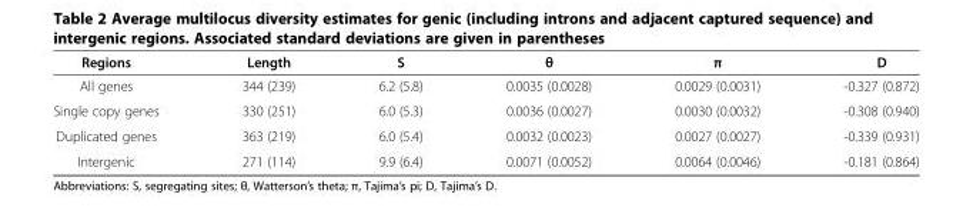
<table><thead><tr><td>Regions</td><td>Length</td><td>S</td><td>θ</td><td>π</td><td>D</td></tr></thead><tbody><tr><td>All genes</td><td>344 (239)</td><td>6.2 (5.8)</td><td>0.0035 (0.0028)</td><td>0.0029 (0.0031)</td><td>-0.327 (0.872)</td></tr><tr><td>Single copy genes</td><td>330 (251)</td><td>6.0 (5.3)</td><td>0.0036 (0.0027)</td><td>0.0030 (0.0032)</td><td>-0.308 (0.940)</td></tr><tr><td>Duplicated genes</td><td>363 (219)</td><td>6.0 (5.4)</td><td>0.0032 (0.0023)</td><td>0.0027 (0.0027)</td><td>-0.339 (0.931)</td></tr><tr><td>Intergenic</td><td>271 (114)</td><td>9.9 (6.4)</td><td>0.0071 (0.0052)</td><td>0.0064 (0.0046)</td><td>-0.181 (0.864)</td></tr></tbody></table>